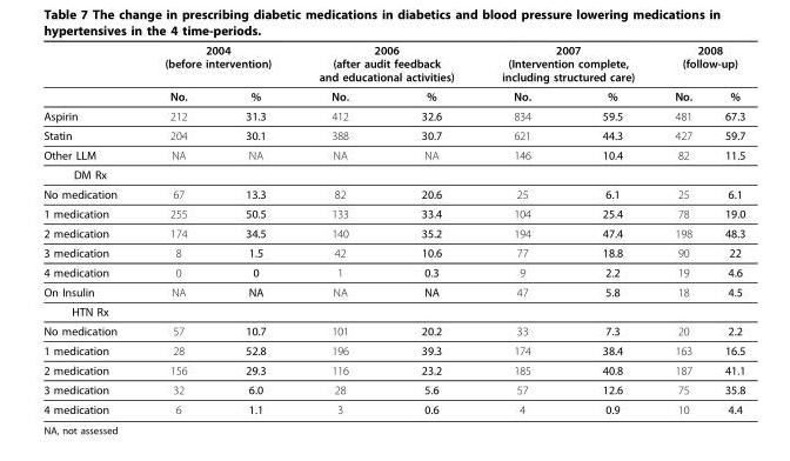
<table><thead><tr><td rowspan="2"></td><td colspan="2">2004 (before intervention)</td><td colspan="2">2006 (after audit feedback and educational activities)</td><td colspan="2">2007 (Intervention complete, including structured care)</td><td colspan="2">2008 (follow-up)</td></tr><tr><td>No.</td><td>%</td><td>No.</td><td>%</td><td>No.</td><td>%</td><td>No.</td><td>%</td></tr></thead><tbody><tr><td>Aspirin</td><td>212</td><td>31.3</td><td>412</td><td>32.6</td><td>834</td><td>59.5</td><td>481</td><td>67.3</td></tr><tr><td>Statin</td><td>204</td><td>30.1</td><td>388</td><td>30.7</td><td>621</td><td>44.3</td><td>427</td><td>59.7</td></tr><tr><td>Other LLM</td><td>NA</td><td>NA</td><td>NA</td><td>NA</td><td>146</td><td>10.4</td><td>82</td><td>11.5</td></tr><tr><td colspan="9">DM Rx</td></tr><tr><td>No medication</td><td>67</td><td>13.3</td><td>82</td><td>20.6</td><td>25</td><td>6.1</td><td>25</td><td>6.1</td></tr><tr><td>1 medication</td><td>255</td><td>50.5</td><td>133</td><td>33.4</td><td>104</td><td>25.4</td><td>78</td><td>19.0</td></tr><tr><td>2 medication</td><td>174</td><td>34.5</td><td>140</td><td>35.2</td><td>194</td><td>47.4</td><td>198</td><td>48.3</td></tr><tr><td>3 medication</td><td>8</td><td>1.5</td><td>42</td><td>10.6</td><td>77</td><td>18.8</td><td>90</td><td>22</td></tr><tr><td>4 medication</td><td>0</td><td>0</td><td>1</td><td>0.3</td><td>9</td><td>2.2</td><td>19</td><td>4.6</td></tr><tr><td>On Insulin</td><td>NA</td><td>NA</td><td>NA</td><td>NA</td><td>47</td><td>5.8</td><td>18</td><td>4.5</td></tr><tr><td colspan="9">HTN Rx</td></tr><tr><td>No medication</td><td>57</td><td>10.7</td><td>101</td><td>20.2</td><td>33</td><td>7.3</td><td>20</td><td>2.2</td></tr><tr><td>1 medication</td><td>28</td><td>52.8</td><td>196</td><td>39.3</td><td>174</td><td>38.4</td><td>163</td><td>16.5</td></tr><tr><td>2 medication</td><td>156</td><td>29.3</td><td>116</td><td>23.2</td><td>185</td><td>40.8</td><td>187</td><td>41.1</td></tr><tr><td>3 medication</td><td>32</td><td>6.0</td><td>28</td><td>5.6</td><td>57</td><td>12.6</td><td>75</td><td>35.8</td></tr><tr><td>4 medication</td><td>6</td><td>1.1</td><td>3</td><td>0.6</td><td>4</td><td>0.9</td><td>10</td><td>4.4</td></tr></tbody></table>